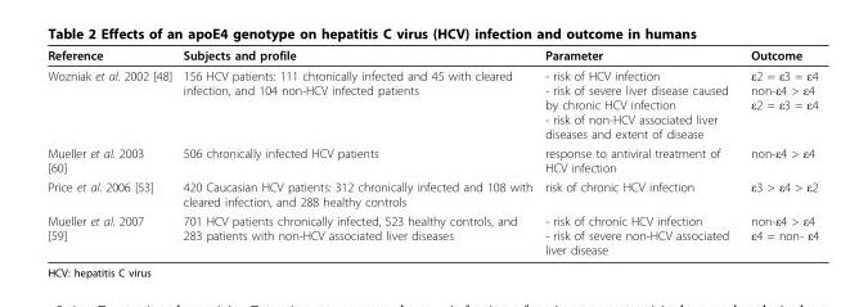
<table><thead><tr><td>Reference</td><td>Subjects and profile</td><td>Parameter</td><td>Outcome</td></tr></thead><tbody><tr><td>Wozniak et al. 2002 [48]</td><td>156 HCV patients: 111 chronically infected and 45 with cleared infection, and 104 non-HCV infected patients</td><td>- risk of HCV infection - risk of severe liver disease caused by chronic HCV infection - risk of non-HCV associated liver diseases and extent of disease</td><td>ε2 = ε3 = ε4 non-ε4 &gt; ε4 ε2 = ε3 = ε4</td></tr><tr><td>Mueller et al. 2003 [60]</td><td>506 chronically infected HCV patients</td><td>response to antiviral treatment of HCV infection</td><td>non-ε4 &gt; ε4</td></tr><tr><td>Price et al. 2006 [53]</td><td>420 Caucasian HCV patients: 312 chronically infected and 108 with cleared infection, and 288 healthy controls</td><td>risk of chronic HCV infection</td><td>ε3 &gt; ε4 &gt; ε2</td></tr><tr><td>Mueller et al. 2007 [59]</td><td>701 HCV patients chronically infected, 523 healthy controls, and 283 patients with non-HCV associated liver diseases</td><td>- risk of chronic HCV infection - risk of severe non-HCV associated liver disease</td><td>non-ε4 &gt; ε4 ε4 = non- ε4</td></tr></tbody></table>